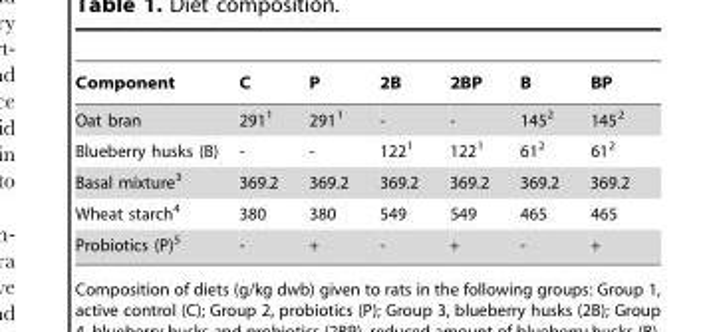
<table><thead><tr><td>Component</td><td>C</td><td>P</td><td>2B</td><td>2BP</td><td>B</td><td>BP</td></tr></thead><tbody><tr><td>Oat bran</td><td>291<sup>1</sup></td><td>291<sup>1</sup></td><td>-</td><td>-</td><td>145<sup>2</sup></td><td>145<sup>2</sup></td></tr><tr><td>Blueberry husks (B)</td><td>-</td><td>-</td><td>122<sup>1</sup></td><td>122<sup>1</sup></td><td>61<sup>2</sup></td><td>61<sup>2</sup></td></tr><tr><td>Basal mixture<sup>3</sup></td><td>369.2</td><td>369.2</td><td>369.2</td><td>369.2</td><td>369.2</td><td>369.2</td></tr><tr><td>Wheat starch<sup>4</sup></td><td>380</td><td>380</td><td>549</td><td>549</td><td>465</td><td>465</td></tr><tr><td>Probiotics (P)<sup>5</sup></td><td>-</td><td>+</td><td>-</td><td>+</td><td>-</td><td>+</td></tr></tbody></table>